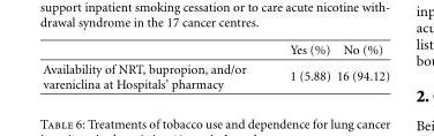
<table><thead><tr><td></td><td>Yes (%)</td><td>No (%)</td></tr></thead><tbody><tr><td>Availability of NRT, bupropion, and/or vareniclina at Hospitals’ pharmacy</td><td>1 (5.88)</td><td>16 (94.12)</td></tr></tbody></table>